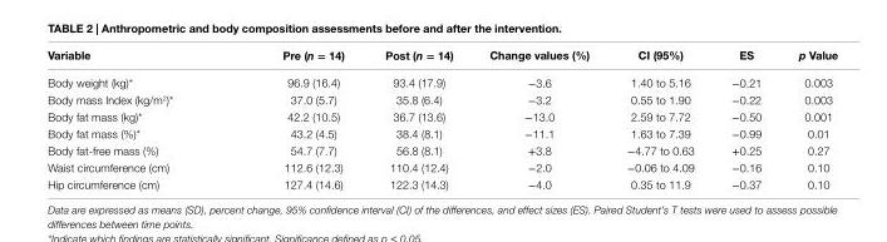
<table><thead><tr><td>Variable</td><td>Pre (n = 14)</td><td>Post (n = 14)</td><td>change values (%)</td><td>ci (95%)</td><td>es</td><td>p Value</td></tr></thead><tbody><tr><td>Body weight (kg)*</td><td>96.9 (16.4)</td><td>93.4 (17.9)</td><td>−3.6</td><td>1.40 to 5.16</td><td>−0.21</td><td>0.003</td></tr><tr><td>Body mass Index (kg/m<sup>2</sup>)*</td><td>37.0 (5.7)</td><td>35.8 (6.4)</td><td>−3.2</td><td>0.55 to 1.90</td><td>−0.22</td><td>0.003</td></tr><tr><td>Body fat mass (kg)*</td><td>42.2 (10.5)</td><td>36.7 (13.6)</td><td>−13.0</td><td>2.59 to 7.72</td><td>−0.50</td><td>0.001</td></tr><tr><td>Body fat mass (%)*</td><td>43.2 (4.5)</td><td>38.4 (8.1)</td><td>−11.1</td><td>1.63 to 7.39</td><td>−0.99</td><td>0.01</td></tr><tr><td>Body fat-free mass (%)</td><td>54.7 (7.7)</td><td>56.8 (8.1)</td><td>+3.8</td><td>−4.77 to 0.63</td><td>+0.25</td><td>0.27</td></tr><tr><td>Waist circumference (cm)</td><td>112.6 (12.3)</td><td>110.4 (12.4)</td><td>−2.0</td><td>−0.06 to 4.09</td><td>−0.16</td><td>0.10</td></tr><tr><td>Hip circumference (cm)</td><td>127.4 (14.6)</td><td>122.3 (14.3)</td><td>−4.0</td><td>0.35 to 11.9</td><td>−0.37</td><td>0.10</td></tr></tbody></table>